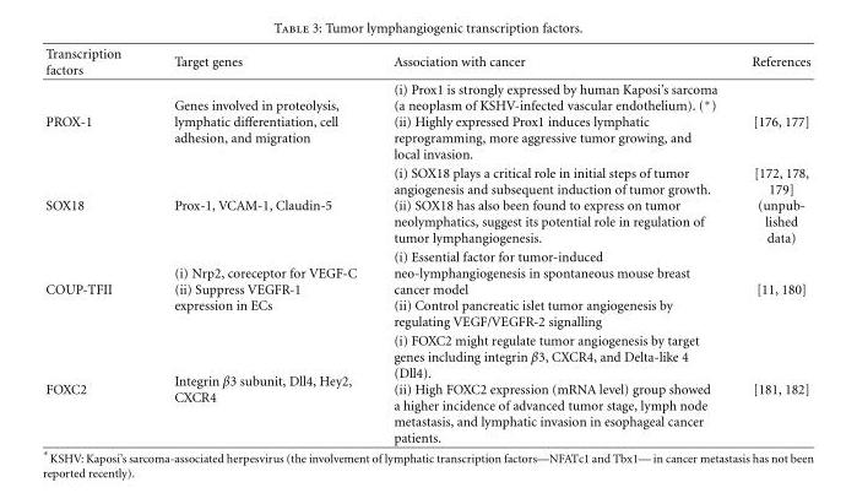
<table><thead><tr><td>Transcription factors</td><td>Target genes</td><td>Association with cancer</td><td>References</td></tr></thead><tbody><tr><td>PROX-1</td><td>Genes involved in proteolysis, lymphatic differentiation, cell adhesion, and migration</td><td>(i) Prox1 is strongly expressed by human Kaposi’s sarcoma (a neoplasm of KSHV-infected vascular endothelium). (∗) (ii) Highly expressed Prox1 induces lymphatic reprogramming, more aggressive tumor growing, and local invasion.</td><td>[176, 177]</td></tr><tr><td>SOX18</td><td>Prox-1, VCAM-1, Claudin-5</td><td>(i) SOX18 plays a critical role in initial steps of tumor angiogenesis and subsequent induction of tumor growth. (ii) SOX18 has also been found to express on tumor neolymphatics, suggest its potential role in regulation of tumor lymphangiogenesis.</td><td>[172, 178, 179] (unpub- lished data)</td></tr><tr><td>COUP-TFII</td><td>(i) Nrp2, coreceptor for VEGF-C (ii) Suppress VEGFR-1 expression in ECs</td><td>(i) Essential factor for tumor-induced neo-lymphangiogenesis in spontaneous mouse breast cancer model (ii) Control pancreatic islet tumor angiogenesis by regulating VEGF/VEGFR-2 signalling</td><td>[11, 180]</td></tr><tr><td>FOXC2</td><td>Integrin β3 subunit, Dll4, Hey2, CXCR4</td><td>(i) FOXC2 might regulate tumor angiogenesis by target genes including integrin β3, CXCR4, and Delta-like 4 (Dll4). (ii) High FOXC2 expression (mRNA level) group showed a higher incidence of advanced tumor stage, lymph node metastasis, and lymphatic invasion in esophageal cancer patients.</td><td>[181, 182]</td></tr></tbody></table>